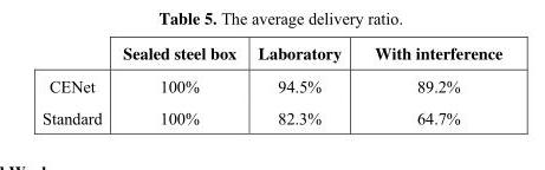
<table><thead><tr><td></td><td>Sealed steel box</td><td>Laboratory</td><td>With interference</td></tr></thead><tbody><tr><td>CENet</td><td>100%</td><td>94.5%</td><td>89.2%</td></tr><tr><td>Standard</td><td>100%</td><td>82.3%</td><td>64.7%</td></tr></tbody></table>